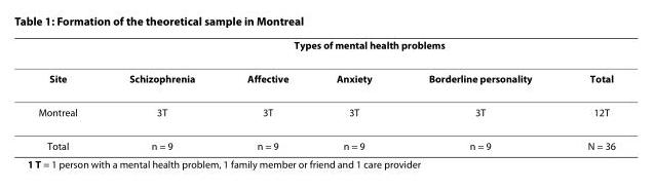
<table><thead><tr><td rowspan="2">Site</td><td colspan="5">Types of mental health problems</td></tr><tr><td>Schizophrenia</td><td>Affective</td><td>Anxiety</td><td>Borderline personality</td><td>Total</td></tr></thead><tbody><tr><td>Montreal</td><td>3T</td><td>3T</td><td>3T</td><td>3T</td><td>12T</td></tr><tr><td>Total</td><td>n = 9</td><td>n = 9</td><td>n = 9</td><td>n = 9</td><td>N = 36</td></tr></tbody></table>